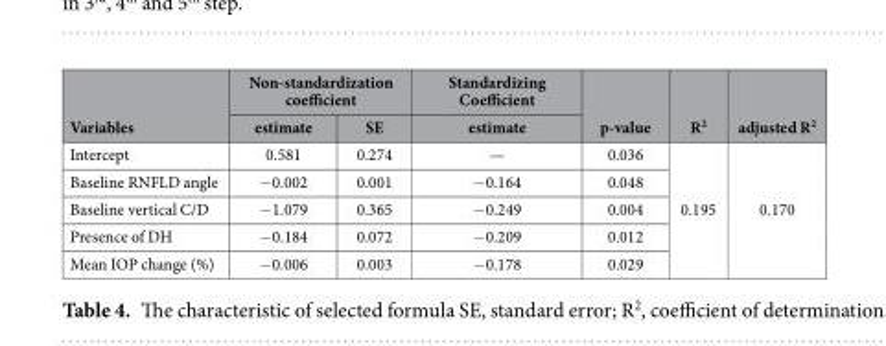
<table><thead><tr><td rowspan="2">Variables</td><td colspan="2">Non-standardization coefficient</td><td rowspan="2">Standardizing Coefficient estimate</td><td rowspan="2">p-value</td><td rowspan="2">R<sup>2</sup></td><td rowspan="2">adjusted R<sup>2</sup></td></tr><tr><td>estimate</td><td>SE</td></tr></thead><tbody><tr><td>Intercept</td><td>0.581</td><td>0.274</td><td>—</td><td>0.036</td><td rowspan="5">0.195</td><td rowspan="5">0.170</td></tr><tr><td>Baseline RNFLD angle</td><td>−0.002</td><td>0.001</td><td>−0.164</td><td>0.048</td></tr><tr><td>Baseline vertical C/D</td><td>−1.079</td><td>0.365</td><td>−0.249</td><td>0.004</td></tr><tr><td>Presence of DH</td><td>−0.184</td><td>0.072</td><td>−0.209</td><td>0.012</td></tr><tr><td>Mean IOP change (%)</td><td>−0.006</td><td>0.003</td><td>−0.178</td><td>0.029</td></tr></tbody></table>